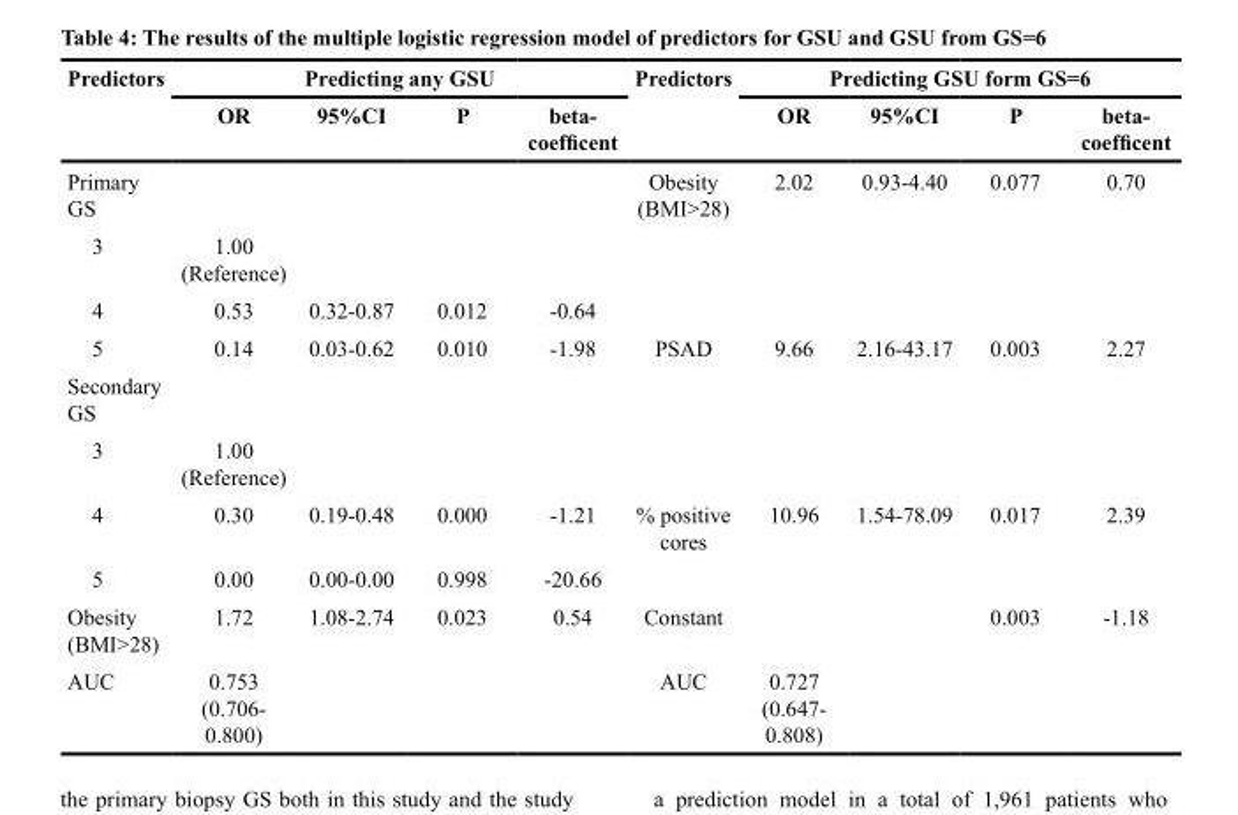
<table><thead><tr><td rowspan="2">Predictors</td><td colspan="4">Predicting any GSU</td><td rowspan="2">Predictors</td><td colspan="4">Predicting GSU form GS=6</td></tr><tr><td>OR</td><td>95%CI</td><td>P</td><td>beta- coefficent</td><td>OR</td><td>95%CI</td><td>P</td><td>beta- coefficent</td></tr></thead><tbody><tr><td>Primary GS</td><td></td><td></td><td></td><td></td><td>Obesity (BMI&gt;28)</td><td>2.02</td><td>0.93-4.40</td><td>0.077</td><td>0.70</td></tr><tr><td>3</td><td>1.00 (Reference)</td><td></td><td></td><td></td><td></td><td></td><td></td><td></td><td></td></tr><tr><td>4</td><td>0.53</td><td>0.32-0.87</td><td>0.012</td><td>-0.64</td><td></td><td></td><td></td><td></td><td></td></tr><tr><td>5</td><td>0.14</td><td>0.03-0.62</td><td>0.010</td><td>-1.98</td><td>PSAD</td><td>9.66</td><td>2.16-43.17</td><td>0.003</td><td>2.27</td></tr><tr><td colspan="10">Secondary GS</td></tr><tr><td>3</td><td>1.00 (Reference)</td><td></td><td></td><td></td><td></td><td></td><td></td><td></td><td></td></tr><tr><td>4</td><td>0.30</td><td>0.19-0.48</td><td>0.000</td><td>-1.21</td><td>% positive cores</td><td>10.96</td><td>1.54-78.09</td><td>0.017</td><td>2.39</td></tr><tr><td>5</td><td>0.00</td><td>0.00-0.00</td><td>0.998</td><td>-20.66</td><td></td><td></td><td></td><td></td><td></td></tr><tr><td>Obesity (BMI&gt;28)</td><td>1.72</td><td>1.08-2.74</td><td>0.023</td><td>0.54</td><td>Constant</td><td></td><td></td><td>0.003</td><td>-1.18</td></tr><tr><td>AUC</td><td>0.753 (0.706- 0.800)</td><td></td><td></td><td></td><td>AUC</td><td>0.727 (0.647- 0.808)</td><td></td><td></td><td></td></tr></tbody></table>